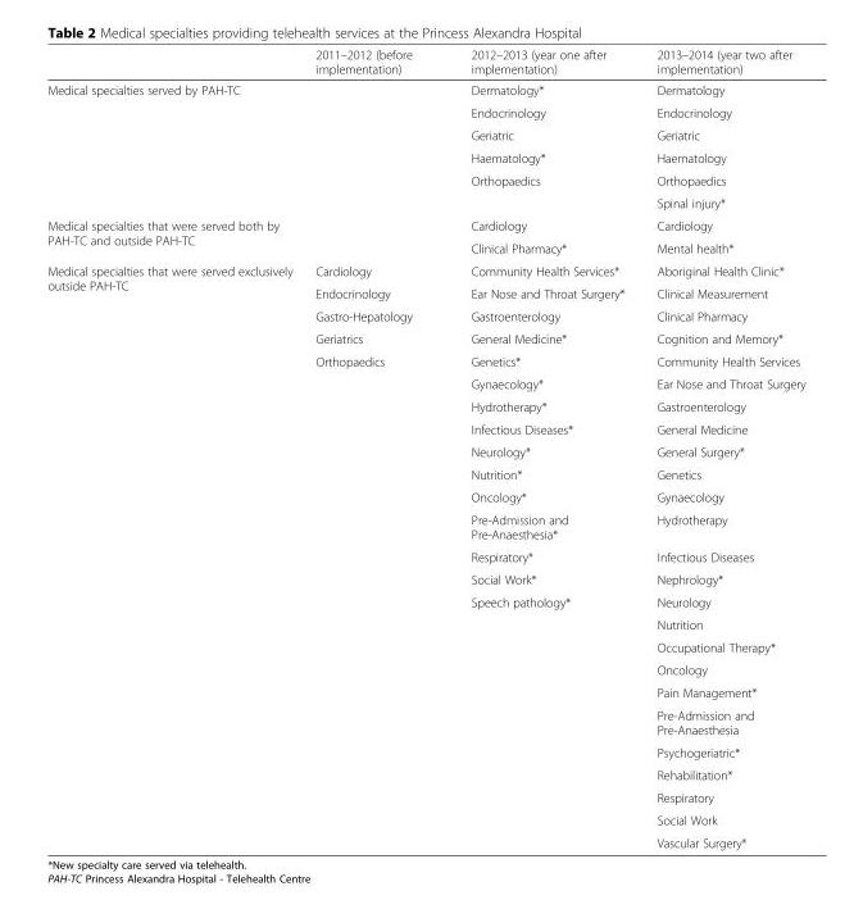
<table><thead><tr><td></td><td>2011–2012 (before implementation)</td><td>2012–2013 (year one after implementation)</td><td>2013–2014 (year two after implementation)</td></tr></thead><tbody><tr><td rowspan="6">Medical specialties served by PAH-TC</td><td></td><td>Dermatology*</td><td>Dermatology</td></tr><tr><td></td><td>Endocrinology</td><td>Endocrinology</td></tr><tr><td></td><td>Geriatric</td><td>Geriatric</td></tr><tr><td></td><td>Haematology*</td><td>Haematology</td></tr><tr><td></td><td>Orthopaedics</td><td>Orthopaedics</td></tr><tr><td></td><td></td><td>Spinal injury*</td></tr><tr><td rowspan="2">Medical specialties that were served both by PAH-TC and outside PAH-TC</td><td></td><td>Cardiology</td><td>Cardiology</td></tr><tr><td></td><td>Clinical Pharmacy*</td><td>Mental health*</td></tr><tr><td rowspan="25">Medical specialties that were served exclusively outside PAH-TC</td><td>Cardiology</td><td>Community Health Services*</td><td>Aboriginal Health Clinic*</td></tr><tr><td>Endocrinology</td><td>Ear Nose and Throat Surgery*</td><td>Clinical Measurement</td></tr><tr><td>Gastro-Hepatology</td><td>Gastroenterology</td><td>Clinical Pharmacy</td></tr><tr><td>Geriatrics</td><td>General Medicine*</td><td>Cognition and Memory*</td></tr><tr><td>Orthopaedics</td><td>Genetics*</td><td>Community Health Services</td></tr><tr><td></td><td>Gynaecology*</td><td>Ear Nose and Throat Surgery</td></tr><tr><td></td><td>Hydrotherapy*</td><td>Gastroenterology</td></tr><tr><td></td><td>Infectious Diseases*</td><td>General Medicine</td></tr><tr><td></td><td>Neurology*</td><td>General Surgery*</td></tr><tr><td></td><td>Nutrition*</td><td>Genetics</td></tr><tr><td></td><td>Oncology*</td><td>Gynaecology</td></tr><tr><td></td><td>Pre-Admission and Pre-Anaesthesia*</td><td>Hydrotherapy</td></tr><tr><td></td><td>Respiratory*</td><td>Infectious Diseases</td></tr><tr><td></td><td>Social Work*</td><td>Nephrology*</td></tr><tr><td></td><td>Speech pathology*</td><td>Neurology</td></tr><tr><td></td><td></td><td>Nutrition</td></tr><tr><td></td><td></td><td>Occupational Therapy*</td></tr><tr><td></td><td></td><td>Oncology</td></tr><tr><td></td><td></td><td>Pain Management*</td></tr><tr><td></td><td></td><td>Pre-Admission and Pre-Anaesthesia</td></tr><tr><td></td><td></td><td>Psychogeriatric*</td></tr><tr><td></td><td></td><td>Rehabilitation*</td></tr><tr><td></td><td></td><td>Respiratory</td></tr><tr><td></td><td></td><td>Social Work</td></tr><tr><td></td><td></td><td>Vascular Surgery*</td></tr></tbody></table>